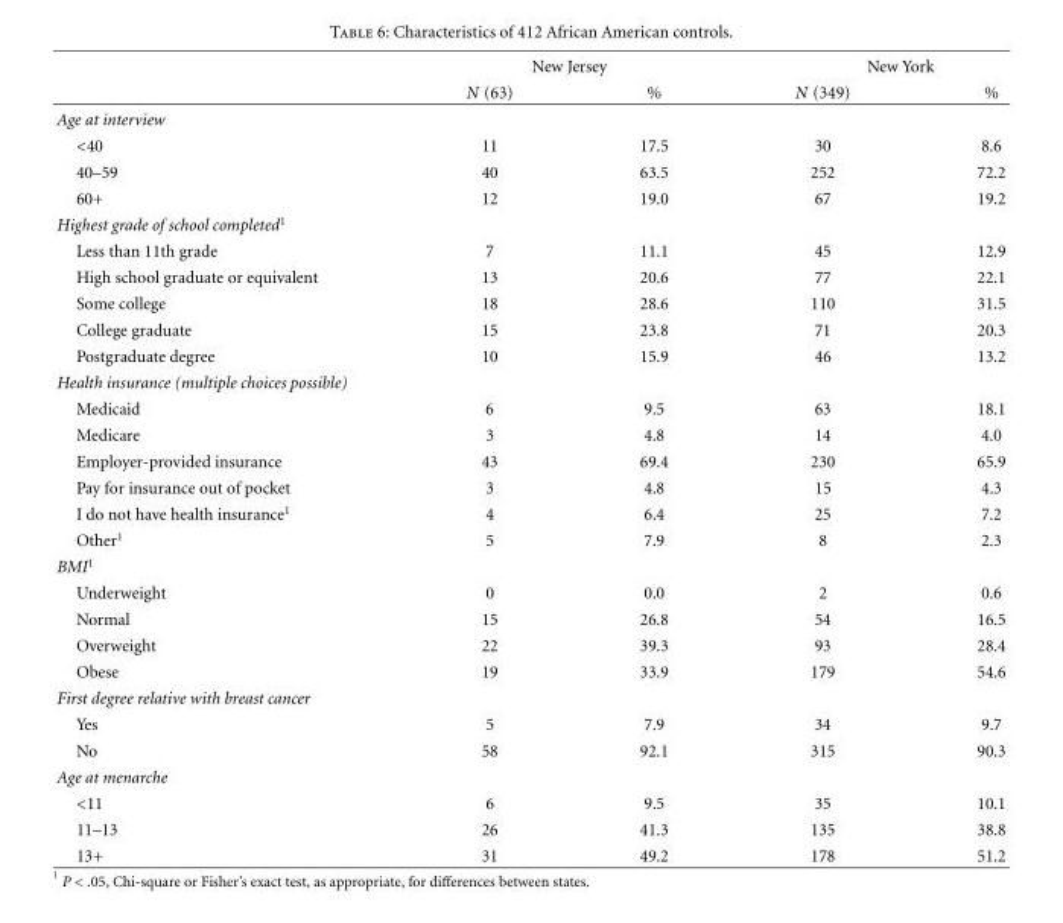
<table><thead><tr><td rowspan="2"></td><td colspan="2">New Jersey</td><td colspan="2">New York</td></tr><tr><td>N (63)</td><td>%</td><td>N (349)</td><td>%</td></tr></thead><tbody><tr><td colspan="5">Age at interview</td></tr><tr><td>&lt;40</td><td>11</td><td>17.5</td><td>30</td><td>8.6</td></tr><tr><td>40–59</td><td>40</td><td>63.5</td><td>252</td><td>72.2</td></tr><tr><td>60+</td><td>12</td><td>19.0</td><td>67</td><td>19.2</td></tr><tr><td colspan="5">Highest grade of school completed<sup>1</sup></td></tr><tr><td>Less than 11th grade</td><td>7</td><td>11.1</td><td>45</td><td>12.9</td></tr><tr><td>High school graduate or equivalent</td><td>13</td><td>20.6</td><td>77</td><td>22.1</td></tr><tr><td>Some college</td><td>18</td><td>28.6</td><td>110</td><td>31.5</td></tr><tr><td>College graduate</td><td>15</td><td>23.8</td><td>71</td><td>20.3</td></tr><tr><td>Postgraduate degree</td><td>10</td><td>15.9</td><td>46</td><td>13.2</td></tr><tr><td colspan="5">Health insurance (multiple choices possible)</td></tr><tr><td>Medicaid</td><td>6</td><td>9.5</td><td>63</td><td>18.1</td></tr><tr><td>Medicare</td><td>3</td><td>4.8</td><td>14</td><td>4.0</td></tr><tr><td>Employer-provided insurance</td><td>43</td><td>69.4</td><td>230</td><td>65.9</td></tr><tr><td>Pay for insurance out of pocket</td><td>3</td><td>4.8</td><td>15</td><td>4.3</td></tr><tr><td>I do not have health insurance<sup>1</sup></td><td>4</td><td>6.4</td><td>25</td><td>7.2</td></tr><tr><td>Other<sup>1</sup></td><td>5</td><td>7.9</td><td>8</td><td>2.3</td></tr><tr><td colspan="5">BMI<sup>1</sup></td></tr><tr><td>Underweight</td><td>0</td><td>0.0</td><td>2</td><td>0.6</td></tr><tr><td>Normal</td><td>15</td><td>26.8</td><td>54</td><td>16.5</td></tr><tr><td>Overweight</td><td>22</td><td>39.3</td><td>93</td><td>28.4</td></tr><tr><td>Obese</td><td>19</td><td>33.9</td><td>179</td><td>54.6</td></tr><tr><td colspan="5">First degree relative with breast cancer</td></tr><tr><td>Yes</td><td>5</td><td>7.9</td><td>34</td><td>9.7</td></tr><tr><td>No</td><td>58</td><td>92.1</td><td>315</td><td>90.3</td></tr><tr><td colspan="5">Age at menarche</td></tr><tr><td>&lt;11</td><td>6</td><td>9.5</td><td>35</td><td>10.1</td></tr><tr><td>11–13</td><td>26</td><td>41.3</td><td>135</td><td>38.8</td></tr><tr><td>13+</td><td>31</td><td>49.2</td><td>178</td><td>51.2</td></tr></tbody></table>